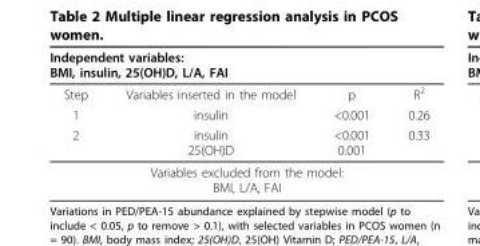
<table><thead><tr><td colspan="4">Independent variables: BMI, insulin, 25(OH)D, L/A, FAI</td></tr><tr><td>Step</td><td>Variables inserted in the model</td><td>p</td><td>R<sup>2</sup></td></tr></thead><tbody><tr><td>1</td><td>insulin</td><td>&lt;0.001</td><td>0.26</td></tr><tr><td>2</td><td>insulin 25(OH)D</td><td>&lt;0.001 0.001</td><td>0.33</td></tr><tr><td colspan="4">Variables excluded from the model: BMI, L/A, FAI</td></tr></tbody></table>